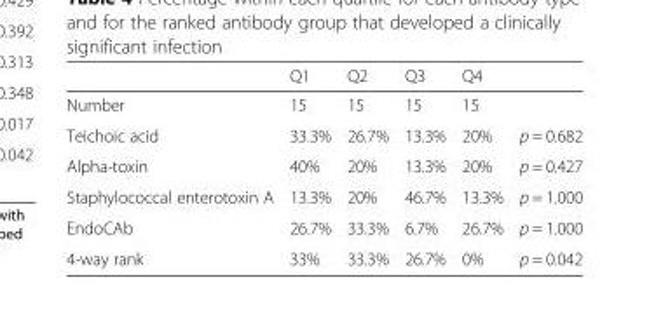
<table><thead><tr><td></td><td>Q1</td><td>Q2</td><td>Q3</td><td>Q4</td><td></td></tr></thead><tbody><tr><td>Number</td><td>15</td><td>15</td><td>15</td><td>15</td><td></td></tr><tr><td>Teichoic acid</td><td>33.3%</td><td>26.7%</td><td>13.3%</td><td>20%</td><td>p = 0.682</td></tr><tr><td>Alpha-toxin</td><td>40%</td><td>20%</td><td>13.3%</td><td>20%</td><td>p = 0.427</td></tr><tr><td>Staphylococcal enterotoxin A</td><td>13.3%</td><td>20%</td><td>46.7%</td><td>13.3%</td><td>p = 1.000</td></tr><tr><td>EndoCAb</td><td>26.7%</td><td>33.3%</td><td>6.7%</td><td>26.7%</td><td>p = 1.000</td></tr><tr><td>4-way rank</td><td>33%</td><td>33.3%</td><td>26.7%</td><td>0%</td><td>p = 0.042</td></tr></tbody></table>